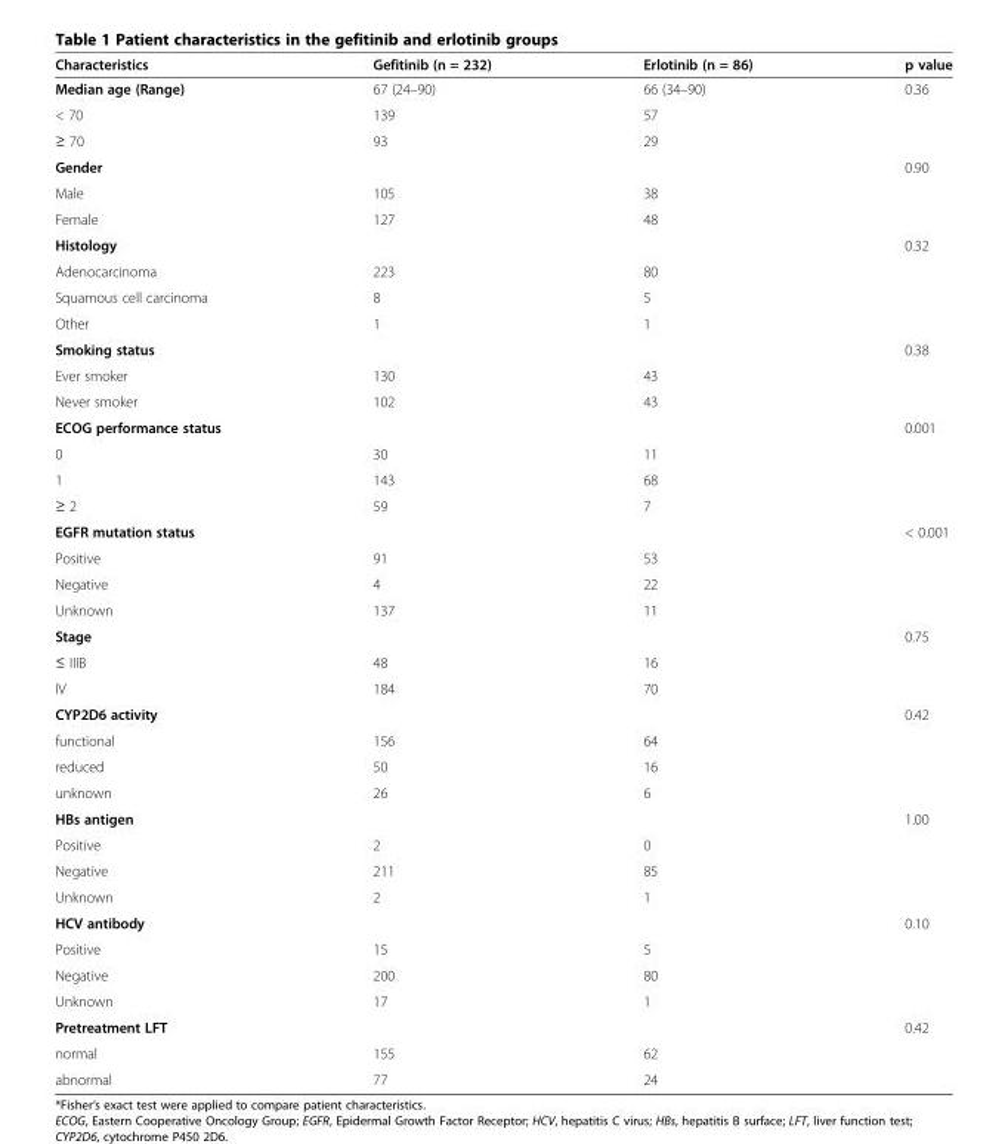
<table><thead><tr><td>Characteristics</td><td>Gefitinib (n = 232)</td><td>Erlotinib (n = 86)</td><td>p value</td></tr></thead><tbody><tr><td>Median age (Range)</td><td>67 (24–90)</td><td>66 (34–90)</td><td>0.36</td></tr><tr><td>&lt; 70</td><td>139</td><td>57</td><td rowspan="2"></td></tr><tr><td>≥ 70</td><td>93</td><td>29</td></tr><tr><td>Gender</td><td></td><td></td><td>0.90</td></tr><tr><td>Male</td><td>105</td><td>38</td><td rowspan="2"></td></tr><tr><td>Female</td><td>127</td><td>48</td></tr><tr><td>Histology</td><td></td><td></td><td>0.32</td></tr><tr><td>Adenocarcinoma</td><td>223</td><td>80</td><td rowspan="3"></td></tr><tr><td>Squamous cell carcinoma</td><td>8</td><td>5</td></tr><tr><td>Other</td><td>1</td><td>1</td></tr><tr><td>Smoking status</td><td></td><td></td><td>0.38</td></tr><tr><td>Ever smoker</td><td>130</td><td>43</td><td rowspan="2"></td></tr><tr><td>Never smoker</td><td>102</td><td>43</td></tr><tr><td>ECOG performance status</td><td></td><td></td><td>0.001</td></tr><tr><td>0</td><td>30</td><td>11</td><td></td></tr><tr><td>1</td><td>143</td><td>68</td><td rowspan="2"></td></tr><tr><td>≥ 2</td><td>59</td><td>7</td></tr><tr><td>EGFR mutation status</td><td></td><td></td><td>&lt; 0.001</td></tr><tr><td>Positive</td><td>91</td><td>53</td><td rowspan="3"></td></tr><tr><td>Negative</td><td>4</td><td>22</td></tr><tr><td>Unknown</td><td>137</td><td>11</td></tr><tr><td>Stage</td><td></td><td></td><td>0.75</td></tr><tr><td>≤ IIIB</td><td>48</td><td>16</td><td rowspan="2"></td></tr><tr><td>IV</td><td>184</td><td>70</td></tr><tr><td>CYP2D6 activity</td><td></td><td></td><td>0.42</td></tr><tr><td>functional</td><td>156</td><td>64</td><td rowspan="3"></td></tr><tr><td>reduced</td><td>50</td><td>16</td></tr><tr><td>unknown</td><td>26</td><td>6</td></tr><tr><td>HBs antigen</td><td></td><td></td><td>1.00</td></tr><tr><td>Positive</td><td>2</td><td>0</td><td rowspan="3"></td></tr><tr><td>Negative</td><td>211</td><td>85</td></tr><tr><td>Unknown</td><td>2</td><td>1</td></tr><tr><td>HCV antibody</td><td></td><td></td><td>0.10</td></tr><tr><td>Positive</td><td>15</td><td>5</td><td rowspan="3"></td></tr><tr><td>Negative</td><td>200</td><td>80</td></tr><tr><td>Unknown</td><td>17</td><td>1</td></tr><tr><td>Pretreatment LFT</td><td></td><td></td><td>0.42</td></tr><tr><td>normal</td><td>155</td><td>62</td><td></td></tr><tr><td>abnormal</td><td>77</td><td>24</td><td></td></tr></tbody></table>